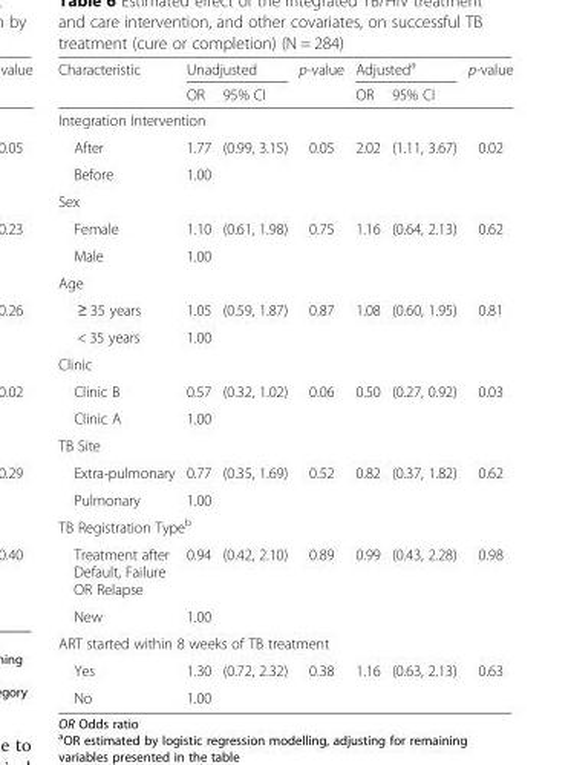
<table><thead><tr><td rowspan="2">Characteristic</td><td colspan="2">Unadjusted</td><td rowspan="2">p-value</td><td colspan="2">Adjusted<sup>a</sup></td><td rowspan="2">p-value</td></tr><tr><td>OR</td><td>95% CI</td><td>OR</td><td>95% CI</td></tr></thead><tbody><tr><td colspan="7">Integration Intervention</td></tr><tr><td>After</td><td>1.77</td><td>(0.99, 3.15)</td><td>0.05</td><td>2.02</td><td>(1.11, 3.67)</td><td>0.02</td></tr><tr><td>Before</td><td>1.00</td><td></td><td></td><td></td><td></td><td></td></tr><tr><td colspan="7">Sex</td></tr><tr><td>Female</td><td>1.10</td><td>(0.61, 1.98)</td><td>0.75</td><td>1.16</td><td>(0.64, 2.13)</td><td>0.62</td></tr><tr><td>Male</td><td>1.00</td><td></td><td></td><td></td><td></td><td></td></tr><tr><td colspan="7">Age</td></tr><tr><td>≥ 35 years</td><td>1.05</td><td>(0.59, 1.87)</td><td>0.87</td><td>1.08</td><td>(0.60, 1.95)</td><td>0.81</td></tr><tr><td>&lt; 35 years</td><td>1.00</td><td></td><td></td><td></td><td></td><td></td></tr><tr><td colspan="7">Clinic</td></tr><tr><td>Clinic B</td><td>0.57</td><td>(0.32, 1.02)</td><td>0.06</td><td>0.50</td><td>(0.27, 0.92)</td><td>0.03</td></tr><tr><td>Clinic A</td><td>1.00</td><td></td><td></td><td></td><td></td><td></td></tr><tr><td colspan="7">TB Site</td></tr><tr><td>Extra-pulmonary</td><td>0.77</td><td>(0.35, 1.69)</td><td>0.52</td><td>0.82</td><td>(0.37, 1.82)</td><td>0.62</td></tr><tr><td>Pulmonary</td><td>1.00</td><td></td><td></td><td></td><td></td><td></td></tr><tr><td colspan="7">TB Registration Type<sup>b</sup></td></tr><tr><td>Treatment after Default, Failure OR Relapse</td><td>0.94</td><td>(0.42, 2.10)</td><td>0.89</td><td>0.99</td><td>(0.43, 2.28)</td><td>0.98</td></tr><tr><td>New</td><td>1.00</td><td></td><td></td><td></td><td></td><td></td></tr><tr><td colspan="7">ART started within 8 weeks of TB treatment</td></tr><tr><td>Yes</td><td>1.30</td><td>(0.72, 2.32)</td><td>0.38</td><td>1.16</td><td>(0.63, 2.13)</td><td>0.63</td></tr><tr><td>No</td><td>1.00</td><td></td><td></td><td></td><td></td><td></td></tr></tbody></table>